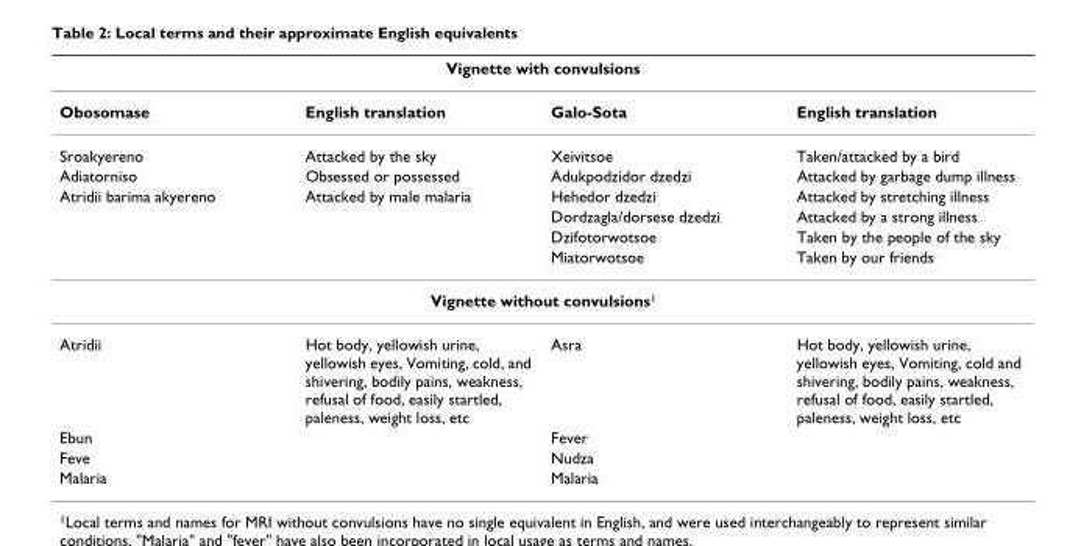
<table><thead><tr><td colspan="4">Vignette with convulsions</td></tr><tr><td>Obosomase</td><td>English translation</td><td>Galo-Sota</td><td>English translation</td></tr></thead><tbody><tr><td>Sroakyereno</td><td>Attacked by the sky</td><td>Xeivitsoe</td><td>Taken/attacked by a bird</td></tr><tr><td>Adiatorniso</td><td>Obsessed or possessed</td><td>Adukpodzidor dzedzi</td><td>Attacked by garbage dump illness</td></tr><tr><td rowspan="4">Atridii barima akyereno</td><td>Attacked by male malaria</td><td>Hehedor dzedzi</td><td>Attacked by stretching illness</td></tr><tr><td></td><td>Dordzagla/dorsese dzedzi</td><td>Attacked by a strong illness</td></tr><tr><td></td><td>Dzifotorwotsoe</td><td>Taken by the people of the sky</td></tr><tr><td></td><td>Miatorwotsoe</td><td>Taken by our friends</td></tr><tr><td colspan="4">Vignette without convulsions<sup>1</sup></td></tr><tr><td>Atridii</td><td>Hot body, yellowish urine, yellowish eyes, Vomiting, cold, and shivering, bodily pains, weakness, refusal of food, easily startled, paleness, weight loss, etc</td><td>Asra</td><td>Hot body, yellowish urine, yellowish eyes, Vomiting, cold and shivering, bodily pains, weakness, refusal of food, easily startled, paleness, weight loss, etc</td></tr><tr><td>Ebun</td><td></td><td>Fever</td><td></td></tr><tr><td>Feve</td><td></td><td>Nudza</td><td></td></tr><tr><td>Malaria</td><td></td><td>Malaria</td><td></td></tr></tbody></table>